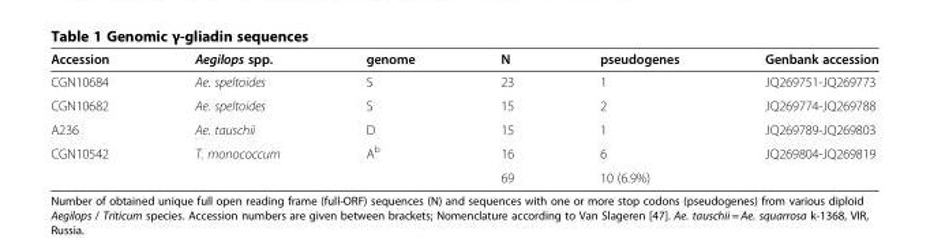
<table><thead><tr><td>Accession</td><td>Aegilops spp.</td><td>genome</td><td>N</td><td>pseudogenes</td><td>Genbank accession</td></tr></thead><tbody><tr><td>CGN10684</td><td>Ae. speltoides</td><td>S</td><td>23</td><td>1</td><td>JQ269751-JQ269773</td></tr><tr><td>CGN10682</td><td>Ae. speltoides</td><td>S</td><td>15</td><td>2</td><td>JQ269774-JQ269788</td></tr><tr><td>A236</td><td>Ae. tauschii</td><td>D</td><td>15</td><td>1</td><td>JQ269789-JQ269803</td></tr><tr><td rowspan="2">CGN10542</td><td>T. monococcum</td><td>A<sup>b</sup></td><td>16</td><td>6</td><td>JQ269804-JQ269819</td></tr><tr><td></td><td></td><td>69</td><td>10 (6.9%)</td><td></td></tr></tbody></table>